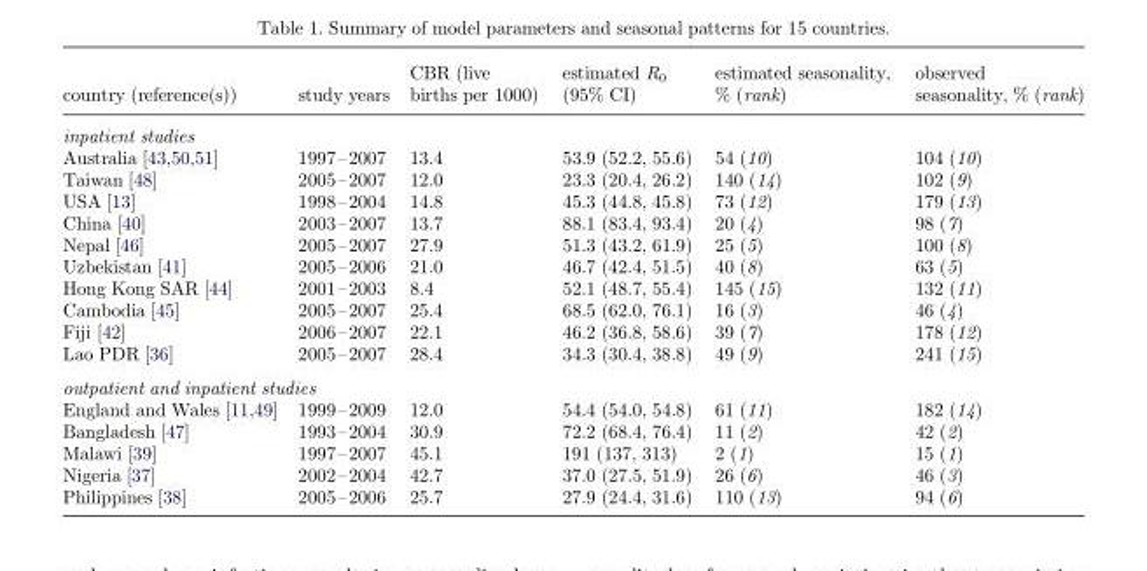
<table><thead><tr><td>country (reference(s))</td><td>study years</td><td>CBR (live births per 1000)</td><td>estimated R<sub>0</sub> (95% CI)</td><td>estimated seasonality, % (rank)</td><td>observed seasonality, % (rank)</td></tr></thead><tbody><tr><td colspan="6">inpatient studies</td></tr><tr><td>Australia [43,50,51]</td><td>1997–2007</td><td>13.4</td><td>53.9 (52.2, 55.6)</td><td>54 (10)</td><td>104 (10)</td></tr><tr><td>Taiwan [48]</td><td>2005–2007</td><td>12.0</td><td>23.3 (20.4, 26.2)</td><td>140 (14)</td><td>102 (9)</td></tr><tr><td>USA [13]</td><td>1998–2004</td><td>14.8</td><td>45.3 (44.8, 45.8)</td><td>73 (12)</td><td>179 (13)</td></tr><tr><td>China [40]</td><td>2003–2007</td><td>13.7</td><td>88.1 (83.4, 93.4)</td><td>20 (4)</td><td>98 (7)</td></tr><tr><td>Nepal [46]</td><td>2005–2007</td><td>27.9</td><td>51.3 (43.2, 61.9)</td><td>25 (5)</td><td>100 (8)</td></tr><tr><td>Uzbekistan [41]</td><td>2005–2006</td><td>21.0</td><td>46.7 (42.4, 51.5)</td><td>40 (8)</td><td>63 (5)</td></tr><tr><td>Hong Kong SAR [44]</td><td>2001–2003</td><td>8.4</td><td>52.1 (48.7, 55.4)</td><td>145 (15)</td><td>132 (11)</td></tr><tr><td>Cambodia [45]</td><td>2005–2007</td><td>25.4</td><td>68.5 (62.0, 76.1)</td><td>16 (3)</td><td>46 (4)</td></tr><tr><td>Fiji [42]</td><td>2006–2007</td><td>22.1</td><td>46.2 (36.8, 58.6)</td><td>39 (7)</td><td>178 (12)</td></tr><tr><td>Lao PDR [36]</td><td>2005–2007</td><td>28.4</td><td>34.3 (30.4, 38.8)</td><td>49 (9)</td><td>241 (15)</td></tr><tr><td colspan="6">outpatient and inpatient studies</td></tr><tr><td>England and Wales [11,49]</td><td>1999–2009</td><td>12.0</td><td>54.4 (54.0, 54.8)</td><td>61 (11)</td><td>182 (14)</td></tr><tr><td>Bangladesh [47]</td><td>1993–2004</td><td>30.9</td><td>72.2 (68.4, 76.4)</td><td>11 (2)</td><td>42 (2)</td></tr><tr><td>Malawi [39]</td><td>1997–2007</td><td>45.1</td><td>191 (137, 313)</td><td>2 (1)</td><td>15 (1)</td></tr><tr><td>Nigeria [37]</td><td>2002–2004</td><td>42.7</td><td>37.0 (27.5, 51.9)</td><td>26 (6)</td><td>46 (3)</td></tr><tr><td>Philippines [38]</td><td>2005–2006</td><td>25.7</td><td>27.9 (24.4, 31.6)</td><td>110 (13)</td><td>94 (6)</td></tr></tbody></table>